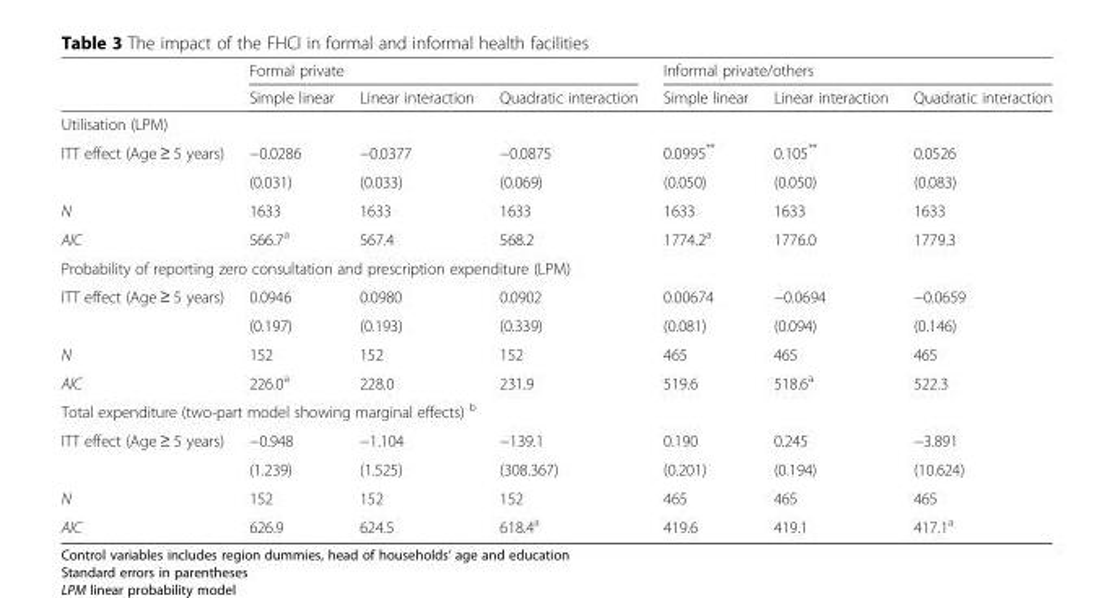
<table><thead><tr><td rowspan="2"></td><td colspan="3">Formal private</td><td colspan="3">Informal private/others</td></tr><tr><td>Simple linear</td><td>Linear interaction</td><td>Quadratic interaction</td><td>Simple linear</td><td>Linear interaction</td><td>Quadratic interaction</td></tr></thead><tbody><tr><td colspan="7">Utilisation (LPM)</td></tr><tr><td rowspan="2">ITT effect (Age ≥ 5 years)</td><td>−0.0286</td><td>−0.0377</td><td>−0.0875</td><td>0.0995**</td><td>0.105**</td><td>0.0526</td></tr><tr><td>(0.031)</td><td>(0.033)</td><td>(0.069)</td><td>(0.050)</td><td>(0.050)</td><td>(0.083)</td></tr><tr><td>N</td><td>1633</td><td>1633</td><td>1633</td><td>1633</td><td>1633</td><td>1633</td></tr><tr><td>AIC</td><td>566.7<sup>a</sup></td><td>567.4</td><td>568.2</td><td>1774.2<sup>a</sup></td><td>1776.0</td><td>1779.3</td></tr><tr><td colspan="7">Probability of reporting zero consultation and prescription expenditure (LPM)</td></tr><tr><td rowspan="2">ITT effect (Age ≥ 5 years)</td><td>0.0946</td><td>0.0980</td><td>0.0902</td><td>0.00674</td><td>−0.0694</td><td>−0.0659</td></tr><tr><td>(0.197)</td><td>(0.193)</td><td>(0.339)</td><td>(0.081)</td><td>(0.094)</td><td>(0.146)</td></tr><tr><td>N</td><td>152</td><td>152</td><td>152</td><td>465</td><td>465</td><td>465</td></tr><tr><td>AIC</td><td>226.0<sup>a</sup></td><td>228.0</td><td>231.9</td><td>519.6</td><td>518.6<sup>a</sup></td><td>522.3</td></tr><tr><td colspan="7">Total expenditure (two-part model showing marginal effects) <sup>b</sup></td></tr><tr><td rowspan="2">ITT effect (Age ≥ 5 years)</td><td>−0.948</td><td>−1.104</td><td>−139.1</td><td>0.190</td><td>0.245</td><td>−3.891</td></tr><tr><td>(1.239)</td><td>(1.525)</td><td>(308.367)</td><td>(0.201)</td><td>(0.194)</td><td>(10.624)</td></tr><tr><td>N</td><td>152</td><td>152</td><td>152</td><td>465</td><td>465</td><td>465</td></tr><tr><td>AIC</td><td>626.9</td><td>624.5</td><td>618.4<sup>a</sup></td><td>419.6</td><td>419.1</td><td>417.1<sup>a</sup></td></tr></tbody></table>